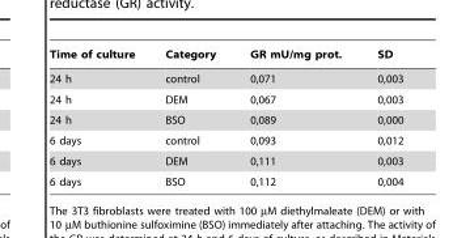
<table><thead><tr><td>Time of culture</td><td>Category</td><td>GR mU/mg prot.</td><td>SD</td></tr></thead><tbody><tr><td>24 h</td><td>control</td><td>0,071</td><td>0,003</td></tr><tr><td>24 h</td><td>DEM</td><td>0,067</td><td>0,003</td></tr><tr><td>24 h</td><td>BSO</td><td>0,089</td><td>0,000</td></tr><tr><td>6 days</td><td>control</td><td>0,093</td><td>0,012</td></tr><tr><td>6 days</td><td>DEM</td><td>0,111</td><td>0,003</td></tr><tr><td>6 days</td><td>BSO</td><td>0,112</td><td>0,004</td></tr></tbody></table>